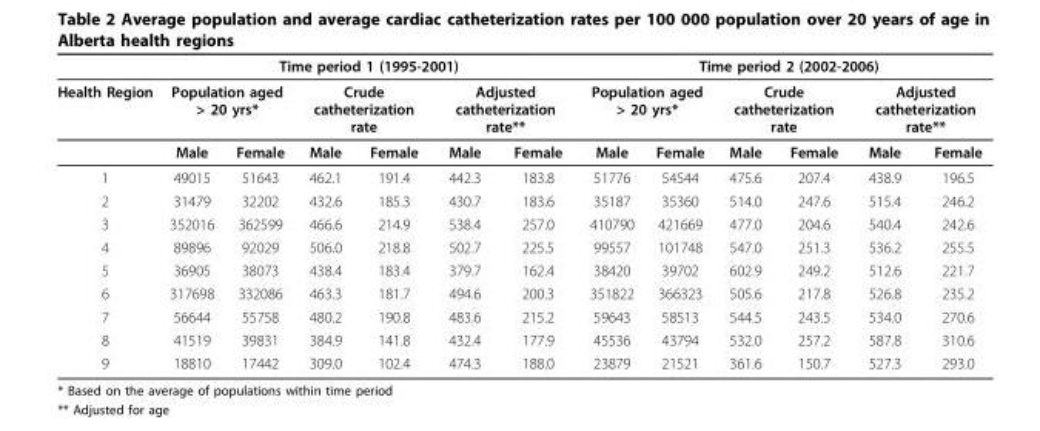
<table><thead><tr><td rowspan="3">Health Region</td><td colspan="6">Time period 1 (1995-2001)</td><td colspan="6">Time period 2 (2002-2006)</td></tr><tr><td colspan="2">Population aged &gt; 20 yrs*</td><td colspan="2">Crude catheterization rate</td><td colspan="2">Adjusted catheterization rate**</td><td colspan="2">Population aged &gt; 20 yrs*</td><td colspan="2">Crude catheterization rate</td><td colspan="2">Adjusted catheterization rate**</td></tr><tr><td>Male</td><td>Female</td><td>Male</td><td>Female</td><td>Male</td><td>Female</td><td>Male</td><td>Female</td><td>Male</td><td>Female</td><td>Male</td><td>Female</td></tr></thead><tbody><tr><td>1</td><td>49015</td><td>51643</td><td>462.1</td><td>191.4</td><td>442.3</td><td>183.8</td><td>51776</td><td>54544</td><td>475.6</td><td>207.4</td><td>438.9</td><td>196.5</td></tr><tr><td>2</td><td>31479</td><td>32202</td><td>432.6</td><td>185.3</td><td>430.7</td><td>183.6</td><td>35187</td><td>35360</td><td>514.0</td><td>247.6</td><td>515.4</td><td>246.2</td></tr><tr><td>3</td><td>352016</td><td>362599</td><td>466.6</td><td>214.9</td><td>538.4</td><td>257.0</td><td>410790</td><td>421669</td><td>477.0</td><td>204.6</td><td>540.4</td><td>242.6</td></tr><tr><td>4</td><td>89896</td><td>92029</td><td>506.0</td><td>218.8</td><td>502.7</td><td>225.5</td><td>99557</td><td>101748</td><td>547.0</td><td>251.3</td><td>536.2</td><td>255.5</td></tr><tr><td>5</td><td>36905</td><td>38073</td><td>438.4</td><td>183.4</td><td>379.7</td><td>162.4</td><td>38420</td><td>39702</td><td>602.9</td><td>249.2</td><td>512.6</td><td>221.7</td></tr><tr><td>6</td><td>317698</td><td>332086</td><td>463.3</td><td>181.7</td><td>494.6</td><td>200.3</td><td>351822</td><td>366323</td><td>505.6</td><td>217.8</td><td>526.8</td><td>235.2</td></tr><tr><td>7</td><td>56644</td><td>55758</td><td>480.2</td><td>190.8</td><td>483.6</td><td>215.2</td><td>59643</td><td>58513</td><td>544.5</td><td>243.5</td><td>534.0</td><td>270.6</td></tr><tr><td>8</td><td>41519</td><td>39831</td><td>384.9</td><td>141.8</td><td>432.4</td><td>177.9</td><td>45536</td><td>43794</td><td>532.0</td><td>257.2</td><td>587.8</td><td>310.6</td></tr><tr><td>9</td><td>18810</td><td>17442</td><td>309.0</td><td>102.4</td><td>474.3</td><td>188.0</td><td>23879</td><td>21521</td><td>361.6</td><td>150.7</td><td>527.3</td><td>293.0</td></tr></tbody></table>